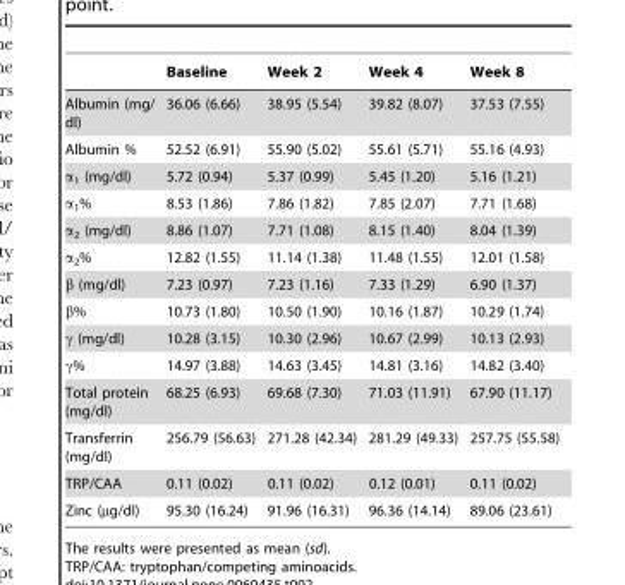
<table><thead><tr><td></td><td>Baseline</td><td>Week 2</td><td>Week 4</td><td>Week 8</td></tr></thead><tbody><tr><td>Albumin (mg/ dl)</td><td>36.06 (6.66)</td><td>38.95 (5.54)</td><td>39.82 (8.07)</td><td>37.53 (7.55)</td></tr><tr><td>Albumin %</td><td>52.52 (6.91)</td><td>55.90 (5.02)</td><td>55.61 (5.71)</td><td>55.16 (4.93)</td></tr><tr><td>α<sub>1</sub> (mg/dl)</td><td>5.72 (0.94)</td><td>5.37 (0.99)</td><td>5.45 (1.20)</td><td>5.16 (1.21)</td></tr><tr><td>α<sub>1</sub>%</td><td>8.53 (1.86)</td><td>7.86 (1.82)</td><td>7.85 (2.07)</td><td>7.71 (1.68)</td></tr><tr><td>α<sub>2</sub> (mg/dl)</td><td>8.86 (1.07)</td><td>7.71 (1.08)</td><td>8.15 (1.40)</td><td>8.04 (1.39)</td></tr><tr><td>α<sub>2</sub>%</td><td>12.82 (1.55)</td><td>11.14 (1.38)</td><td>11.48 (1.55)</td><td>12.01 (1.58)</td></tr><tr><td>β (mg/dl)</td><td>7.23 (0.97)</td><td>7.23 (1.16)</td><td>7.33 (1.29)</td><td>6.90 (1.37)</td></tr><tr><td>β%</td><td>10.73 (1.80)</td><td>10.50 (1.90)</td><td>10.16 (1.87)</td><td>10.29 (1.74)</td></tr><tr><td>γ (mg/dl)</td><td>10.28 (3.15)</td><td>10.30 (2.96)</td><td>10.67 (2.99)</td><td>10.13 (2.93)</td></tr><tr><td>γ%</td><td>14.97 (3.88)</td><td>14.63 (3.45)</td><td>14.81 (3.16)</td><td>14.82 (3.40)</td></tr><tr><td>Total protein (mg/dl)</td><td>68.25 (6.93)</td><td>69.68 (7.30)</td><td>71.03 (11.91)</td><td>67.90 (11.17)</td></tr><tr><td>Transferrin (mg/dl)</td><td>256.79 (56.63)</td><td>271.28 (42.34)</td><td>281.29 (49.33)</td><td>257.75 (55.58)</td></tr><tr><td>TRP/CAA</td><td>0.11 (0.02)</td><td>0.11 (0.02)</td><td>0.12 (0.01)</td><td>0.11 (0.02)</td></tr><tr><td>Zinc (µg/dl)</td><td>95.30 (16.24)</td><td>91.96 (16.31)</td><td>96.36 (14.14)</td><td>89.06 (23.61)</td></tr></tbody></table>